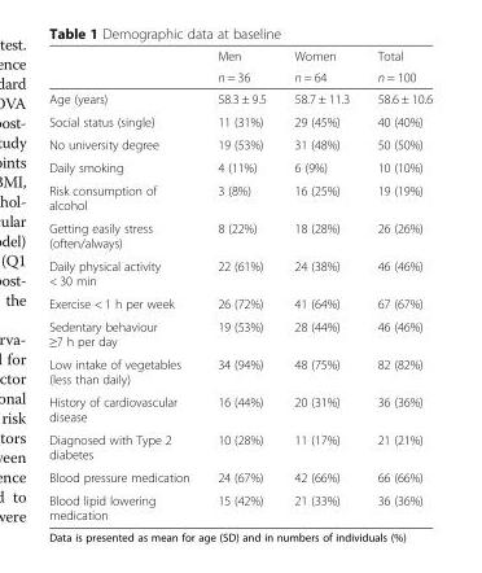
<table><thead><tr><td rowspan="2"></td><td rowspan="2">Men n = 36</td><td rowspan="2">Women n = 64</td><td rowspan="2">Total n = 100</td></tr><tr></tr></thead><tbody><tr><td>Age (years)</td><td>58.3 ± 9.5</td><td>58.7 ± 11.3</td><td>58.6 ± 10.6</td></tr><tr><td>Social status (single)</td><td>11 (31%)</td><td>29 (45%)</td><td>40 (40%)</td></tr><tr><td>No university degree</td><td>19 (53%)</td><td>31 (48%)</td><td>50 (50%)</td></tr><tr><td>Daily smoking</td><td>4 (11%)</td><td>6 (9%)</td><td>10 (10%)</td></tr><tr><td>Risk consumption of alcohol</td><td>3 (8%)</td><td>16 (25%)</td><td>19 (19%)</td></tr><tr><td>Getting easily stress (often/always)</td><td>8 (22%)</td><td>18 (28%)</td><td>26 (26%)</td></tr><tr><td>Daily physical activity &lt; 30 min</td><td>22 (61%)</td><td>24 (38%)</td><td>46 (46%)</td></tr><tr><td>Exercise &lt; 1 h per week</td><td>26 (72%)</td><td>41 (64%)</td><td>67 (67%)</td></tr><tr><td>Sedentary behaviour ≥7 h per day</td><td>19 (53%)</td><td>28 (44%)</td><td>46 (46%)</td></tr><tr><td>Low intake of vegetables (less than daily)</td><td>34 (94%)</td><td>48 (75%)</td><td>82 (82%)</td></tr><tr><td>History of cardiovascular disease</td><td>16 (44%)</td><td>20 (31%)</td><td>36 (36%)</td></tr><tr><td>Diagnosed with Type 2 diabetes</td><td>10 (28%)</td><td>11 (17%)</td><td>21 (21%)</td></tr><tr><td>Blood pressure medication</td><td>24 (67%)</td><td>42 (66%)</td><td>66 (66%)</td></tr><tr><td>Blood lipid lowering medication</td><td>15 (42%)</td><td>21 (33%)</td><td>36 (36%)</td></tr></tbody></table>